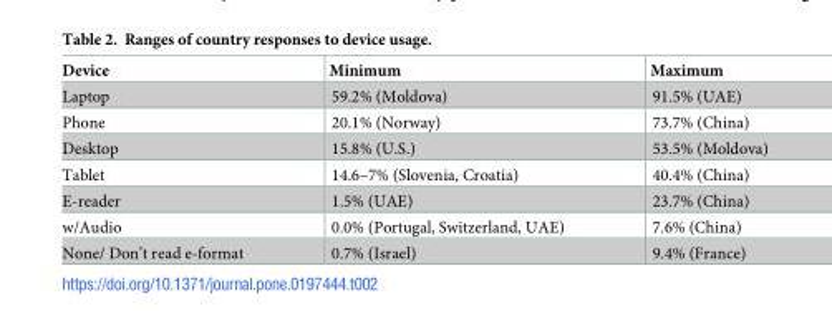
<table><thead><tr><td>Device</td><td>Minimum</td><td>Maximum</td></tr></thead><tbody><tr><td>Laptop</td><td>59.2% (Moldova)</td><td>91.5% (UAE)</td></tr><tr><td>Phone</td><td>20.1% (Norway)</td><td>73.7% (China)</td></tr><tr><td>Desktop</td><td>15.8% (U.S.)</td><td>53.5% (Moldova)</td></tr><tr><td>Tablet</td><td>14.6–7% (Slovenia, Croatia)</td><td>40.4% (China)</td></tr><tr><td>E-reader</td><td>1.5% (UAE)</td><td>23.7% (China)</td></tr><tr><td>w/Audio</td><td>0.0% (Portugal, Switzerland, UAE)</td><td>7.6% (China)</td></tr><tr><td>None/ Don’t read e-format</td><td>0.7% (Israel)</td><td>9.4% (France)</td></tr></tbody></table>